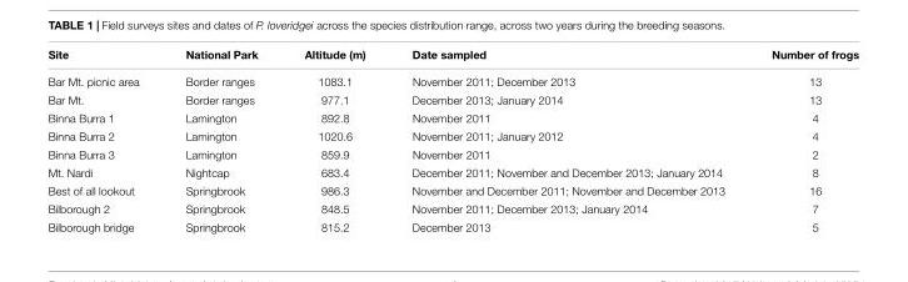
<table><thead><tr><td>Site</td><td>National Park</td><td>Altitude (m)</td><td>Date sampled</td><td>Number of frogs</td></tr></thead><tbody><tr><td>Bar Mt. picnic area</td><td>Border ranges</td><td>1083.1</td><td>November 2011; December 2013</td><td>13</td></tr><tr><td>Bar Mt.</td><td>Border ranges</td><td>977.1</td><td>December 2013; January 2014</td><td>13</td></tr><tr><td>Binna Burra 1</td><td>Lamington</td><td>892.8</td><td>November 2011</td><td>4</td></tr><tr><td>Binna Burra 2</td><td>Lamington</td><td>1020.6</td><td>November 2011; January 2012</td><td>4</td></tr><tr><td>Binna Burra 3</td><td>Lamington</td><td>859.9</td><td>November 2011</td><td>2</td></tr><tr><td>Mt. Nardi</td><td>Nightcap</td><td>683.4</td><td>December 2011; November and December 2013; January 2014</td><td>8</td></tr><tr><td>Best of all lookout</td><td>Springbrook</td><td>986.3</td><td>November and December 2011; November and December 2013</td><td>16</td></tr><tr><td>Bilborough 2</td><td>Springbrook</td><td>848.5</td><td>November 2011; December 2013; January 2014</td><td>7</td></tr><tr><td>Bilborough bridge</td><td>Springbrook</td><td>815.2</td><td>December 2013</td><td>5</td></tr></tbody></table>